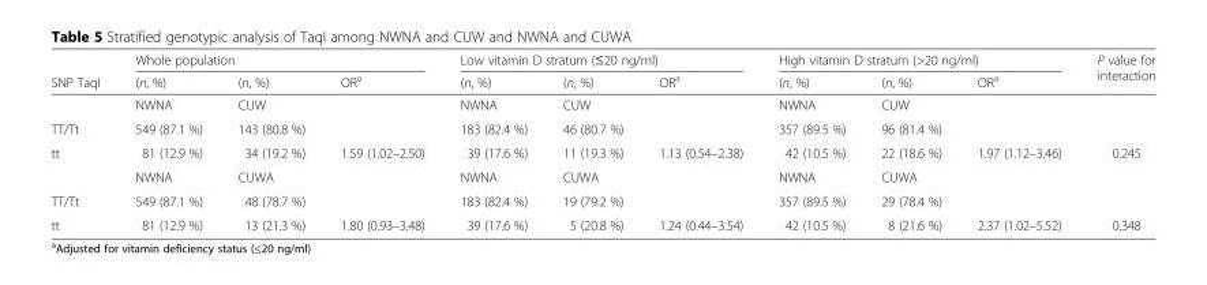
<table><thead><tr><td rowspan="2">SNP TaqI</td><td colspan="3">Whole population</td><td colspan="3">Low vitamin D stratum (≤20 ng/ml)</td><td colspan="3">High vitamin D stratum (&gt;20 ng/ml)</td><td rowspan="2">P value for interaction</td></tr><tr><td>(n, %)</td><td>(n, %)</td><td>OR<sup>a</sup></td><td>(n, %)</td><td>(n, %)</td><td>OR<sup>a</sup></td><td>(n, %)</td><td>(n, %)</td><td>OR<sup>a</sup></td></tr></thead><tbody><tr><td></td><td>NWNA</td><td>CUW</td><td></td><td>NWNA</td><td>CUW</td><td></td><td>NWNA</td><td>CUW</td><td></td><td></td></tr><tr><td>TT/Tt</td><td>549 (87.1 %)</td><td>143 (80.8 %)</td><td></td><td>183 (82.4 %)</td><td>46 (80.7 %)</td><td></td><td>357 (89.5 %)</td><td>96 (81.4 %)</td><td></td><td></td></tr><tr><td rowspan="2">tt</td><td>81 (12.9 %)</td><td>34 (19.2 %)</td><td>1.59 (1.02–2.50)</td><td>39 (17.6 %)</td><td>11 (19.3 %)</td><td>1.13 (0.54–2.38)</td><td>42 (10.5 %)</td><td>22 (18.6 %)</td><td>1.97 (1.12–3.46)</td><td>0.245</td></tr><tr><td>NWNA</td><td>CUWA</td><td></td><td>NWNA</td><td>CUWA</td><td></td><td>NWNA</td><td>CUWA</td><td></td><td></td></tr><tr><td>TT/Tt</td><td>549 (87.1 %)</td><td>48 (78.7 %)</td><td></td><td>183 (82.4 %)</td><td>19 (79.2 %)</td><td></td><td>357 (89.5 %)</td><td>29 (78.4 %)</td><td></td><td></td></tr><tr><td>tt</td><td>81 (12.9 %)</td><td>13 (21.3 %)</td><td>1.80 (0.93–3.48)</td><td>39 (17.6 %)</td><td>5 (20.8 %)</td><td>1.24 (0.44–3.54)</td><td>42 (10.5 %)</td><td>8 (21.6 %)</td><td>2.37 (1.02–5.52)</td><td>0.348</td></tr></tbody></table>